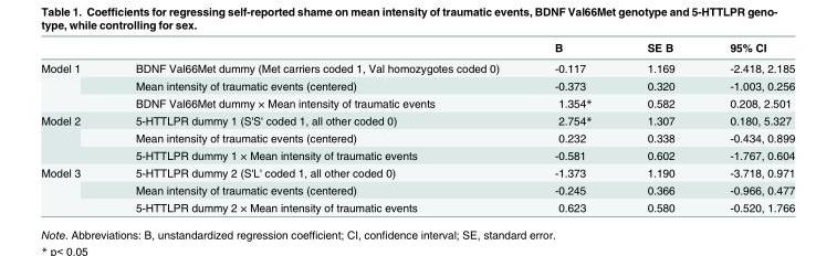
<table><thead><tr><td></td><td></td><td>B</td><td>SE B</td><td>95% CI</td></tr></thead><tbody><tr><td rowspan="3">Model 1</td><td>BDNF Val66Met dummy (Met carriers coded 1, Val homozygotes coded 0)</td><td>-0.117</td><td>1.169</td><td>-2.418, 2.185</td></tr><tr><td>Mean intensity of traumatic events (centered)</td><td>-0.373</td><td>0.320</td><td>-1.003, 0.256</td></tr><tr><td>BDNF Val66Met dummy × Mean intensity of traumatic events</td><td>1.354*</td><td>0.582</td><td>0.208, 2.501</td></tr><tr><td rowspan="3">Model 2</td><td>5-HTTLPR dummy 1 (S&#x27;S&#x27; coded 1, all other coded 0)</td><td>2.754*</td><td>1.307</td><td>0.180, 5.327</td></tr><tr><td>Mean intensity of traumatic events (centered)</td><td>0.232</td><td>0.338</td><td>-0.434, 0.899</td></tr><tr><td>5-HTTLPR dummy 1 × Mean intensity of traumatic events</td><td>-0.581</td><td>0.602</td><td>-1.767, 0.604</td></tr><tr><td rowspan="3">Model 3</td><td>5-HTTLPR dummy 2 (S&#x27;L&#x27; coded 1, all other coded 0)</td><td>-1.373</td><td>1.190</td><td>-3.718, 0.971</td></tr><tr><td>Mean intensity of traumatic events (centered)</td><td>-0.245</td><td>0.366</td><td>-0.966, 0.477</td></tr><tr><td>5-HTTLPR dummy 2 × Mean intensity of traumatic events</td><td>0.623</td><td>0.580</td><td>-0.520, 1.766</td></tr></tbody></table>